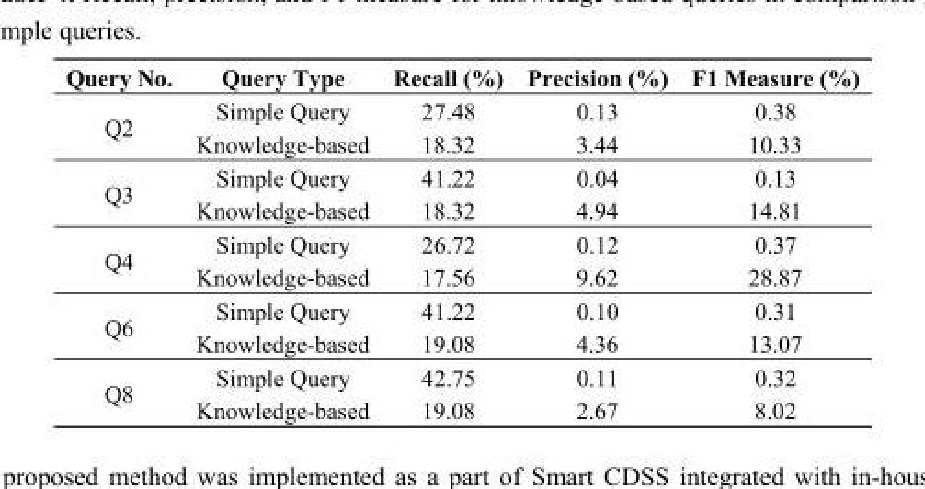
<table><thead><tr><td>Query No.</td><td>Query Type</td><td>Recall (%)</td><td>Precision (%)</td><td>F1 Measure (%)</td></tr></thead><tbody><tr><td rowspan="2">Q2</td><td>Simple Query</td><td>27.48</td><td>0.13</td><td>0.38</td></tr><tr><td>Knowledge-based</td><td>18.32</td><td>3.44</td><td>10.33</td></tr><tr><td rowspan="2">Q3</td><td>Simple Query</td><td>41.22</td><td>0.04</td><td>0.13</td></tr><tr><td>Knowledge-based</td><td>18.32</td><td>4.94</td><td>14.81</td></tr><tr><td rowspan="2">Q4</td><td>Simple Query</td><td>26.72</td><td>0.12</td><td>0.37</td></tr><tr><td>Knowledge-based</td><td>17.56</td><td>9.62</td><td>28.87</td></tr><tr><td rowspan="2">Q6</td><td>Simple Query</td><td>41.22</td><td>0.10</td><td>0.31</td></tr><tr><td>Knowledge-based</td><td>19.08</td><td>4.36</td><td>13.07</td></tr><tr><td rowspan="2">Q8</td><td>Simple Query</td><td>42.75</td><td>0.11</td><td>0.32</td></tr><tr><td>Knowledge-based</td><td>19.08</td><td>2.67</td><td>8.02</td></tr></tbody></table>